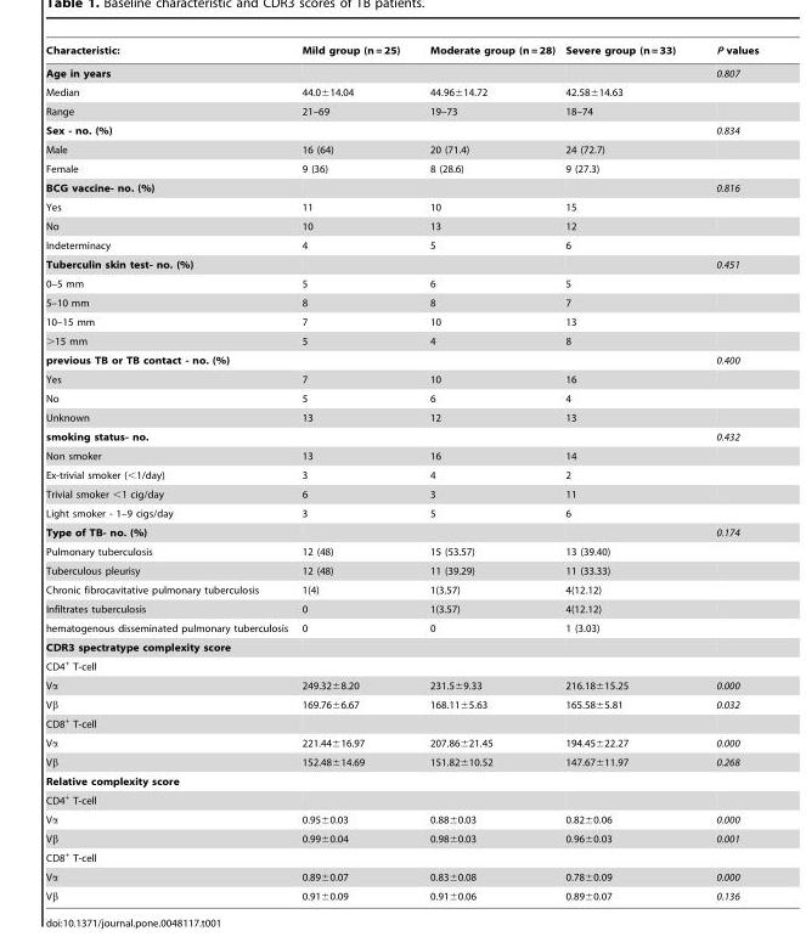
<table><thead><tr><td>Characteristic:</td><td>Mild group (n = 25)</td><td>Moderate group (n = 28)</td><td>Severe group (n = 33)</td><td>P values</td></tr></thead><tbody><tr><td>Age in years</td><td></td><td></td><td></td><td>0.807</td></tr><tr><td>Median</td><td>44.0±14.04</td><td>44.96±14.72</td><td>42.58±14.63</td><td></td></tr><tr><td>Range</td><td>21–69</td><td>19–73</td><td>18–74</td><td></td></tr><tr><td>Sex - no. (%)</td><td></td><td></td><td></td><td>0.834</td></tr><tr><td>Male</td><td>16 (64)</td><td>20 (71.4)</td><td>24 (72.7)</td><td></td></tr><tr><td>Female</td><td>9 (36)</td><td>8 (28.6)</td><td>9 (27.3)</td><td></td></tr><tr><td>BCG vaccine- no. (%)</td><td></td><td></td><td></td><td>0.816</td></tr><tr><td>Yes</td><td>11</td><td>10</td><td>15</td><td></td></tr><tr><td>No</td><td>10</td><td>13</td><td>12</td><td></td></tr><tr><td>Indeterminacy</td><td>4</td><td>5</td><td>6</td><td></td></tr><tr><td>Tuberculin skin test- no. (%)</td><td></td><td></td><td></td><td>0.451</td></tr><tr><td>0–5 mm</td><td>5</td><td>6</td><td>5</td><td></td></tr><tr><td>5–10 mm</td><td>8</td><td>8</td><td>7</td><td></td></tr><tr><td>10–15 mm</td><td>7</td><td>10</td><td>13</td><td></td></tr><tr><td>&gt;15 mm</td><td>5</td><td>4</td><td>8</td><td></td></tr><tr><td>previous TB or TB contact - no. (%)</td><td></td><td></td><td></td><td>0.400</td></tr><tr><td>Yes</td><td>7</td><td>10</td><td>16</td><td></td></tr><tr><td>No</td><td>5</td><td>6</td><td>4</td><td></td></tr><tr><td>Unknown</td><td>13</td><td>12</td><td>13</td><td></td></tr><tr><td>smoking status- no.</td><td></td><td></td><td></td><td>0.432</td></tr><tr><td>Non smoker</td><td>13</td><td>16</td><td>14</td><td></td></tr><tr><td>Ex-trivial smoker (&lt;1/day)</td><td>3</td><td>4</td><td>2</td><td></td></tr><tr><td>Trivial smoker &lt;1 cig/day</td><td>6</td><td>3</td><td>11</td><td></td></tr><tr><td>Light smoker - 1–9 cigs/day</td><td>3</td><td>5</td><td>6</td><td></td></tr><tr><td>Type of TB- no. (%)</td><td></td><td></td><td></td><td>0.174</td></tr><tr><td>Pulmonary tuberculosis</td><td>12 (48)</td><td>15 (53.57)</td><td>13 (39.40)</td><td></td></tr><tr><td>Tuberculous pleurisy</td><td>12 (48)</td><td>11 (39.29)</td><td>11 (33.33)</td><td></td></tr><tr><td>Chronic fibrocavitative pulmonary tuberculosis</td><td>1(4)</td><td>1(3.57)</td><td>4(12.12)</td><td></td></tr><tr><td>Infiltrates tuberculosis</td><td>0</td><td>1(3.57)</td><td>4(12.12)</td><td></td></tr><tr><td>hematogenous disseminated pulmonary tuberculosis</td><td>0</td><td>0</td><td>1 (3.03)</td><td></td></tr><tr><td colspan="5">CDR3 spectratype complexity score</td></tr><tr><td colspan="5">CD4<sup>+</sup> T-cell</td></tr><tr><td>Vα</td><td>249.32±8.20</td><td>231.5±9.33</td><td>216.18±15.25</td><td>0.000</td></tr><tr><td>Vβ</td><td>169.76±6.67</td><td>168.11±5.63</td><td>165.58±5.81</td><td>0.032</td></tr><tr><td colspan="5">CD8<sup>+</sup> T-cell</td></tr><tr><td>Vα</td><td>221.44±16.97</td><td>207.86±21.45</td><td>194.45±22.27</td><td>0.000</td></tr><tr><td>Vβ</td><td>152.48±14.69</td><td>151.82±10.52</td><td>147.67±11.97</td><td>0.268</td></tr><tr><td colspan="5">Relative complexity score</td></tr><tr><td colspan="5">CD4<sup>+</sup> T-cell</td></tr><tr><td>Vα</td><td>0.95±0.03</td><td>0.88±0.03</td><td>0.82±0.06</td><td>0.000</td></tr><tr><td>Vβ</td><td>0.99±0.04</td><td>0.98±0.03</td><td>0.96±0.03</td><td>0.001</td></tr><tr><td colspan="5">CD8<sup>+</sup> T-cell</td></tr><tr><td>Vα</td><td>0.89±0.07</td><td>0.83±0.08</td><td>0.78±0.09</td><td>0.000</td></tr><tr><td>Vβ</td><td>0.91±0.09</td><td>0.91±0.06</td><td>0.89±0.07</td><td>0.136</td></tr></tbody></table>